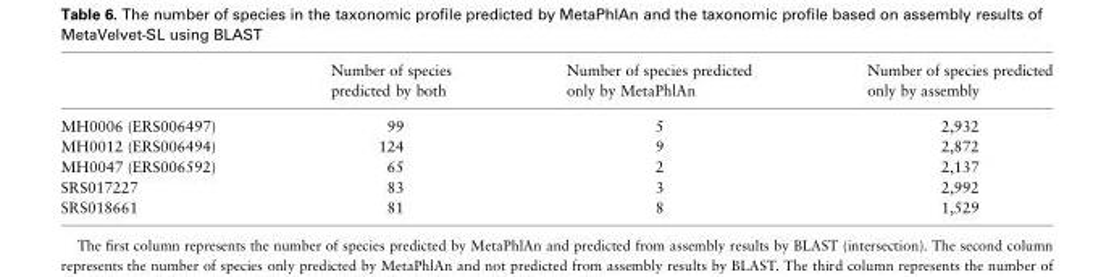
<table><thead><tr><td></td><td>Number of species predicted by both</td><td>Number of species predicted only by MetaPhlAn</td><td>Number of species predicted only by assembly</td></tr></thead><tbody><tr><td>MH0006 (ERS006497)</td><td>99</td><td>5</td><td>2,932</td></tr><tr><td>MH0012 (ERS006494)</td><td>124</td><td>9</td><td>2,872</td></tr><tr><td>MH0047 (ERS006592)</td><td>65</td><td>2</td><td>2,137</td></tr><tr><td>SRS017227</td><td>83</td><td>3</td><td>2,992</td></tr><tr><td>SRS018661</td><td>81</td><td>8</td><td>1,529</td></tr></tbody></table>